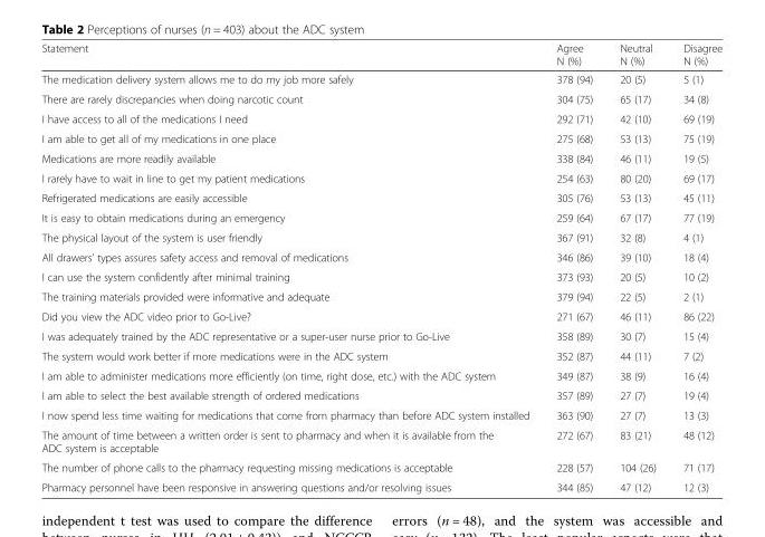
<table><thead><tr><td>Statement</td><td>Agree N (%)</td><td>Neutral N (%)</td><td>Disagree N (%)</td></tr></thead><tbody><tr><td>The medication delivery system allows me to do my job more safely</td><td>378 (94)</td><td>20 (5)</td><td>5 (1)</td></tr><tr><td>There are rarely discrepancies when doing narcotic count</td><td>304 (75)</td><td>65 (17)</td><td>34 (8)</td></tr><tr><td>I have access to all of the medications I need</td><td>292 (71)</td><td>42 (10)</td><td>69 (19)</td></tr><tr><td>I am able to get all of my medications in one place</td><td>275 (68)</td><td>53 (13)</td><td>75 (19)</td></tr><tr><td>Medications are more readily available</td><td>338 (84)</td><td>46 (11)</td><td>19 (5)</td></tr><tr><td>I rarely have to wait in line to get my patient medications</td><td>254 (63)</td><td>80 (20)</td><td>69 (17)</td></tr><tr><td>Refrigerated medications are easily accessible</td><td>305 (76)</td><td>53 (13)</td><td>45 (11)</td></tr><tr><td>It is easy to obtain medications during an emergency</td><td>259 (64)</td><td>67 (17)</td><td>77 (19)</td></tr><tr><td>The physical layout of the system is user friendly</td><td>367 (91)</td><td>32 (8)</td><td>4 (1)</td></tr><tr><td>All drawers’ types assures safety access and removal of medications</td><td>346 (86)</td><td>39 (10)</td><td>18 (4)</td></tr><tr><td>I can use the system confidently after minimal training</td><td>373 (93)</td><td>20 (5)</td><td>10 (2)</td></tr><tr><td>The training materials provided were informative and adequate</td><td>379 (94)</td><td>22 (5)</td><td>2 (1)</td></tr><tr><td>Did you view the ADC video prior to Go-Live?</td><td>271 (67)</td><td>46 (11)</td><td>86 (22)</td></tr><tr><td>I was adequately trained by the ADC representative or a super-user nurse prior to Go-Live</td><td>358 (89)</td><td>30 (7)</td><td>15 (4)</td></tr><tr><td>The system would work better if more medications were in the ADC system</td><td>352 (87)</td><td>44 (11)</td><td>7 (2)</td></tr><tr><td>I am able to administer medications more efficiently (on time, right dose, etc.) with the ADC system</td><td>349 (87)</td><td>38 (9)</td><td>16 (4)</td></tr><tr><td>I am able to select the best available strength of ordered medications</td><td>357 (89)</td><td>27 (7)</td><td>19 (4)</td></tr><tr><td>I now spend less time waiting for medications that come from pharmacy than before ADC system installed</td><td>363 (90)</td><td>27 (7)</td><td>13 (3)</td></tr><tr><td>The amount of time between a written order is sent to pharmacy and when it is available from the ADC system is acceptable</td><td>272 (67)</td><td>83 (21)</td><td>48 (12)</td></tr><tr><td>The number of phone calls to the pharmacy requesting missing medications is acceptable</td><td>228 (57)</td><td>104 (26)</td><td>71 (17)</td></tr><tr><td>Pharmacy personnel have been responsive in answering questions and/or resolving issues</td><td>344 (85)</td><td>47 (12)</td><td>12 (3)</td></tr></tbody></table>